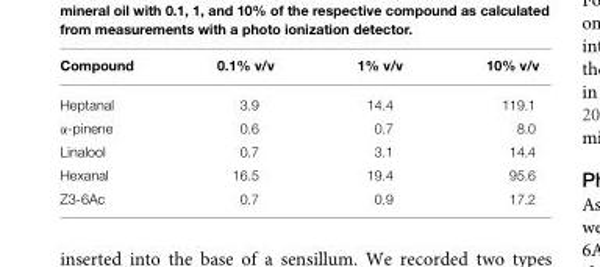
<table><thead><tr><td>Compound</td><td>0.1% v/v</td><td>1% v/v</td><td>10% v/v</td></tr></thead><tbody><tr><td>Heptanal</td><td>3.9</td><td>14.4</td><td>119.1</td></tr><tr><td>α-pinene</td><td>0.6</td><td>0.7</td><td>8.0</td></tr><tr><td>Linalool</td><td>0.7</td><td>3.1</td><td>14.4</td></tr><tr><td>Hexanal</td><td>16.5</td><td>19.4</td><td>95.6</td></tr><tr><td>Z3-6Ac</td><td>0.7</td><td>0.9</td><td>17.2</td></tr></tbody></table>